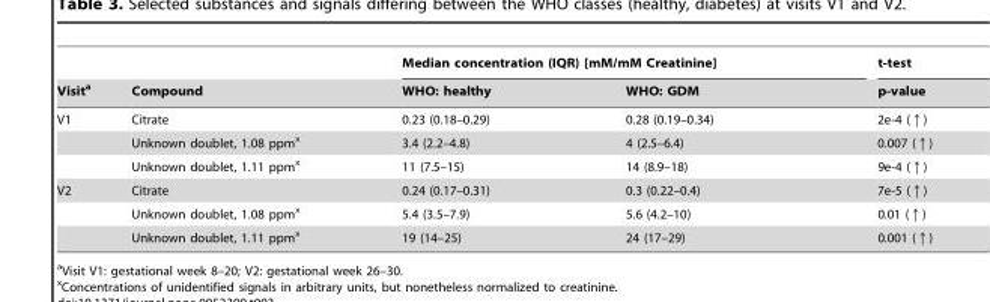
<table><thead><tr><td rowspan="2">Visit<sup>a</sup></td><td rowspan="2">Compound</td><td colspan="2">Median concentration (IQR) [mM/mM Creatinine]</td><td rowspan="2">t-test p-value</td></tr><tr><td>WHO: healthy</td><td>WHO: GDM</td></tr></thead><tbody><tr><td rowspan="3">V1</td><td>Citrate</td><td>0.23 (0.18–0.29)</td><td>0.28 (0.19–0.34)</td><td>2e-4 (↑)</td></tr><tr><td>Unknown doublet, 1.08 ppm<sup>x</sup></td><td>3.4 (2.2–4.8)</td><td>4 (2.5–6.4)</td><td>0.007 (↑)</td></tr><tr><td>Unknown doublet, 1.11 ppm<sup>x</sup></td><td>11 (7.5–15)</td><td>14 (8.9–18)</td><td>9e-4 (↑)</td></tr><tr><td rowspan="3">V2</td><td>Citrate</td><td>0.24 (0.17–0.31)</td><td>0.3 (0.22–0.4)</td><td>7e-5 (↑)</td></tr><tr><td>Unknown doublet, 1.08 ppm<sup>x</sup></td><td>5.4 (3.5–7.9)</td><td>5.6 (4.2–10)</td><td>0.01 (↑)</td></tr><tr><td>Unknown doublet, 1.11 ppm<sup>x</sup></td><td>19 (14–25)</td><td>24 (17–29)</td><td>0.001 (↑)</td></tr></tbody></table>